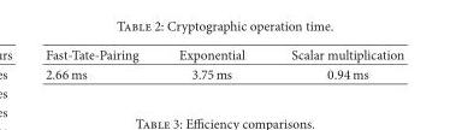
<table><thead><tr><td>Fast-Tate-Pairing</td><td>Exponential</td><td>Scalar multiplication</td></tr></thead><tbody><tr><td>2.66 ms</td><td>3.75 ms</td><td>0.94 ms</td></tr></tbody></table>